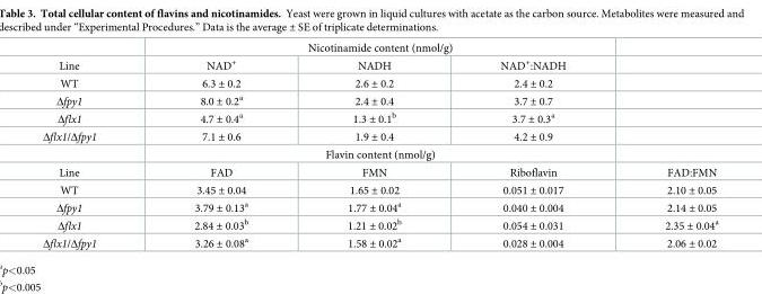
<table><thead><tr><td rowspan="2">Line</td><td colspan="3">Nicotinamide content (nmol/g)</td><td rowspan="2"></td></tr><tr><td>NAD<sup>+</sup></td><td>NADH</td><td>NAD<sup>+</sup>:NADH</td></tr></thead><tbody><tr><td>WT</td><td>6.3 ± 0.2</td><td>2.6 ± 0.2</td><td>2.4 ± 0.2</td><td></td></tr><tr><td>Δfpy1</td><td>8.0 ± 0.2<sup>a</sup></td><td>2.4 ± 0.4</td><td>3.7 ± 0.7</td><td></td></tr><tr><td>Δflx1</td><td>4.7 ± 0.4<sup>a</sup></td><td>1.3 ± 0.1<sup>b</sup></td><td>3.7 ± 0.3<sup>a</sup></td><td></td></tr><tr><td rowspan="2">Δflx1/Δfpy1</td><td>7.1 ± 0.6</td><td>1.9 ± 0.4</td><td>4.2 ± 0.9</td><td></td></tr><tr><td colspan="3">Flavin content (nmol/g)</td><td></td></tr><tr><td>Line</td><td>FAD</td><td>FMN</td><td>Riboflavin</td><td>FAD:FMN</td></tr><tr><td>WT</td><td>3.45 ± 0.04</td><td>1.65 ± 0.02</td><td>0.051 ± 0.017</td><td>2.10 ± 0.05</td></tr><tr><td>Δfpy1</td><td>3.79 ± 0.13<sup>a</sup></td><td>1.77 ± 0.04<sup>a</sup></td><td>0.040 ± 0.004</td><td>2.14 ± 0.05</td></tr><tr><td>Δflx1</td><td>2.84 ± 0.03<sup>b</sup></td><td>1.21 ± 0.02<sup>b</sup></td><td>0.054 ± 0.031</td><td>2.35 ± 0.04<sup>a</sup></td></tr><tr><td>Δflx1/Δfpy1</td><td>3.26 ± 0.08<sup>a</sup></td><td>1.58 ± 0.02<sup>a</sup></td><td>0.028 ± 0.004</td><td>2.06 ± 0.02</td></tr></tbody></table>